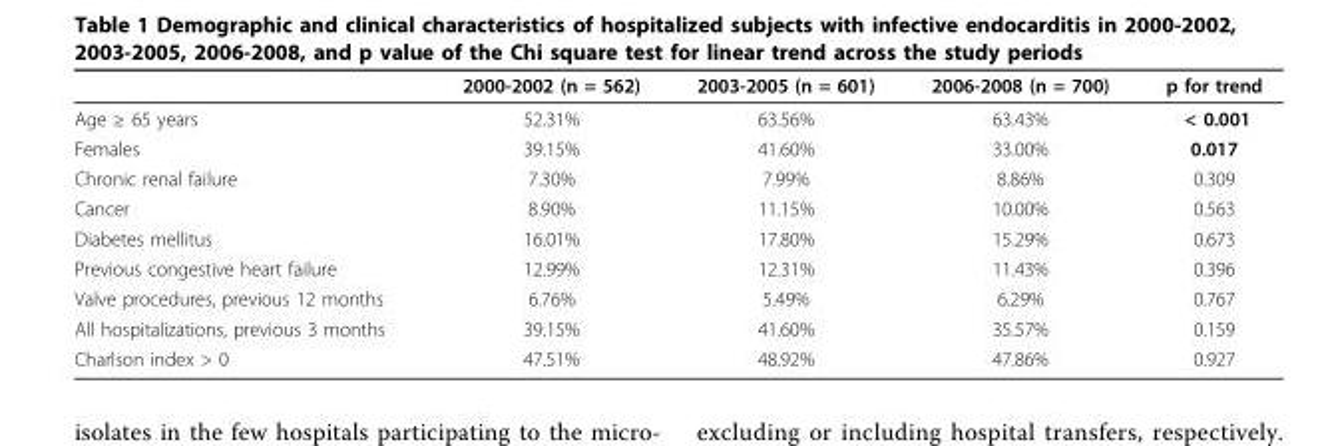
<table><thead><tr><td></td><td>2000-2002 (n = 562)</td><td>2003-2005 (n = 601)</td><td>2006-2008 (n = 700)</td><td>p for trend</td></tr></thead><tbody><tr><td>Age ≥ 65 years</td><td>52.31%</td><td>63.56%</td><td>63.43%</td><td>&lt; 0.001</td></tr><tr><td>Females</td><td>39.15%</td><td>41.60%</td><td>33.00%</td><td>0.017</td></tr><tr><td>Chronic renal failure</td><td>7.30%</td><td>7.99%</td><td>8.86%</td><td>0.309</td></tr><tr><td>Cancer</td><td>8.90%</td><td>11.15%</td><td>10.00%</td><td>0.563</td></tr><tr><td>Diabetes mellitus</td><td>16.01%</td><td>17.80%</td><td>15.29%</td><td>0.673</td></tr><tr><td>Previous congestive heart failure</td><td>12.99%</td><td>12.31%</td><td>11.43%</td><td>0.396</td></tr><tr><td>Valve procedures, previous 12 months</td><td>6.76%</td><td>5.49%</td><td>6.29%</td><td>0.767</td></tr><tr><td>All hospitalizations, previous 3 months</td><td>39.15%</td><td>41.60%</td><td>35.57%</td><td>0.159</td></tr><tr><td>Charlson index &gt; 0</td><td>47.51%</td><td>48.92%</td><td>47.86%</td><td>0.927</td></tr></tbody></table>